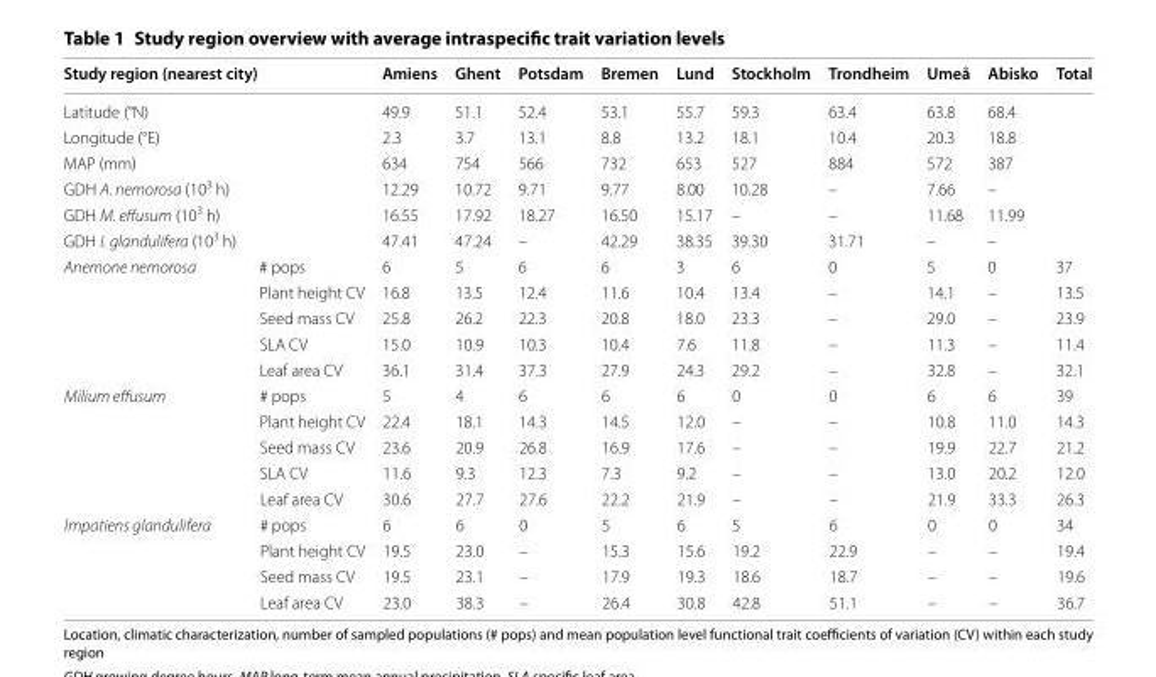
<table><thead><tr><td colspan="2">Study region (nearest city)</td><td>Amiens</td><td>Ghent</td><td>Potsdam</td><td>Bremen</td><td>Lund</td><td>Stockholm</td><td>Trondheim</td><td>Umeå</td><td>Abisko</td><td>Total</td></tr></thead><tbody><tr><td colspan="2">Latitude (°N)</td><td>49.9</td><td>51.1</td><td>52.4</td><td>53.1</td><td>55.7</td><td>59.3</td><td>63.4</td><td>63.8</td><td>68.4</td><td></td></tr><tr><td colspan="2">Longitude (°E)</td><td>2.3</td><td>3.7</td><td>13.1</td><td>8.8</td><td>13.2</td><td>18.1</td><td>10.4</td><td>20.3</td><td>18.8</td><td></td></tr><tr><td colspan="2">MAP (mm)</td><td>634</td><td>754</td><td>566</td><td>732</td><td>653</td><td>527</td><td>884</td><td>572</td><td>387</td><td></td></tr><tr><td colspan="2">GDH A. nemorosa (10<sup>3</sup> h)</td><td>12.29</td><td>10.72</td><td>9.71</td><td>9.77</td><td>8.00</td><td>10.28</td><td>–</td><td>7.66</td><td>–</td><td></td></tr><tr><td colspan="2">GDH M. effusum (10<sup>3</sup> h)</td><td>16.55</td><td>17.92</td><td>18.27</td><td>16.50</td><td>15.17</td><td>–</td><td>–</td><td>11.68</td><td>11.99</td><td></td></tr><tr><td colspan="2">GDH I. glandulifera (10<sup>3</sup> h)</td><td>47.41</td><td>47.24</td><td>–</td><td>42.29</td><td>38.35</td><td>39.30</td><td>31.71</td><td>–</td><td>–</td><td></td></tr><tr><td rowspan="5">Anemone nemorosa</td><td># pops</td><td>6</td><td>5</td><td>6</td><td>6</td><td>3</td><td>6</td><td>0</td><td>5</td><td>0</td><td>37</td></tr><tr><td>Plant height CV</td><td>16.8</td><td>13.5</td><td>12.4</td><td>11.6</td><td>10.4</td><td>13.4</td><td>–</td><td>14.1</td><td>–</td><td>13.5</td></tr><tr><td>Seed mass CV</td><td>25.8</td><td>26.2</td><td>22.3</td><td>20.8</td><td>18.0</td><td>23.3</td><td>–</td><td>29.0</td><td>–</td><td>23.9</td></tr><tr><td>SLA CV</td><td>15.0</td><td>10.9</td><td>10.3</td><td>10.4</td><td>7.6</td><td>11.8</td><td>–</td><td>11.3</td><td>–</td><td>11.4</td></tr><tr><td>Leaf area CV</td><td>36.1</td><td>31.4</td><td>37.3</td><td>27.9</td><td>24.3</td><td>29.2</td><td>–</td><td>32.8</td><td>–</td><td>32.1</td></tr><tr><td rowspan="5">Milium effusum</td><td># pops</td><td>5</td><td>4</td><td>6</td><td>6</td><td>6</td><td>0</td><td>0</td><td>6</td><td>6</td><td>39</td></tr><tr><td>Plant height CV</td><td>22.4</td><td>18.1</td><td>14.3</td><td>14.5</td><td>12.0</td><td>–</td><td>–</td><td>10.8</td><td>11.0</td><td>14.3</td></tr><tr><td>Seed mass CV</td><td>23.6</td><td>20.9</td><td>26.8</td><td>16.9</td><td>17.6</td><td>–</td><td>–</td><td>19.9</td><td>22.7</td><td>21.2</td></tr><tr><td>SLA CV</td><td>11.6</td><td>9.3</td><td>12.3</td><td>7.3</td><td>9.2</td><td>–</td><td>–</td><td>13.0</td><td>20.2</td><td>12.0</td></tr><tr><td>Leaf area CV</td><td>30.6</td><td>27.7</td><td>27.6</td><td>22.2</td><td>21.9</td><td>–</td><td>–</td><td>21.9</td><td>33.3</td><td>26.3</td></tr><tr><td rowspan="4">Impatiens glandulifera</td><td># pops</td><td>6</td><td>6</td><td>0</td><td>5</td><td>6</td><td>5</td><td>6</td><td>0</td><td>0</td><td>34</td></tr><tr><td>Plant height CV</td><td>19.5</td><td>23.0</td><td>–</td><td>15.3</td><td>15.6</td><td>19.2</td><td>22.9</td><td>–</td><td>–</td><td>19.4</td></tr><tr><td>Seed mass CV</td><td>19.5</td><td>23.1</td><td>–</td><td>17.9</td><td>19.3</td><td>18.6</td><td>18.7</td><td>–</td><td>–</td><td>19.6</td></tr><tr><td>Leaf area CV</td><td>23.0</td><td>38.3</td><td>–</td><td>26.4</td><td>30.8</td><td>42.8</td><td>51.1</td><td>–</td><td>–</td><td>36.7</td></tr></tbody></table>